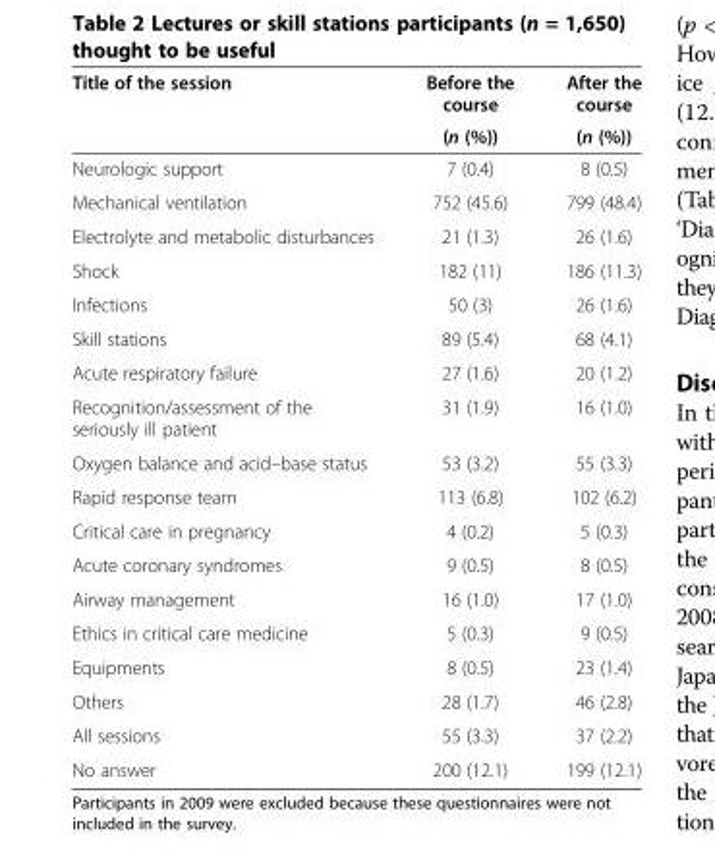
<table><thead><tr><td rowspan="2">Title of the session</td><td rowspan="2">Before the course (n (%))</td><td rowspan="2">After the course (n (%))</td></tr><tr></tr></thead><tbody><tr><td>Neurologic support</td><td>7 (0.4)</td><td>8 (0.5)</td></tr><tr><td>Mechanical ventilation</td><td>752 (45.6)</td><td>799 (48.4)</td></tr><tr><td>Electrolyte and metabolic disturbances</td><td>21 (1.3)</td><td>26 (1.6)</td></tr><tr><td>Shock</td><td>182 (11)</td><td>186 (11.3)</td></tr><tr><td>Infections</td><td>50 (3)</td><td>26 (1.6)</td></tr><tr><td>Skill stations</td><td>89 (5.4)</td><td>68 (4.1)</td></tr><tr><td>Acute respiratory failure</td><td>27 (1.6)</td><td>20 (1.2)</td></tr><tr><td>Recognition/assessment of the seriously ill patient</td><td>31 (1.9)</td><td>16 (1.0)</td></tr><tr><td>Oxygen balance and acid–base status</td><td>53 (3.2)</td><td>55 (3.3)</td></tr><tr><td>Rapid response team</td><td>113 (6.8)</td><td>102 (6.2)</td></tr><tr><td>Critical care in pregnancy</td><td>4 (0.2)</td><td>5 (0.3)</td></tr><tr><td>Acute coronary syndromes</td><td>9 (0.5)</td><td>8 (0.5)</td></tr><tr><td>Airway management</td><td>16 (1.0)</td><td>17 (1.0)</td></tr><tr><td>Ethics in critical care medicine</td><td>5 (0.3)</td><td>9 (0.5)</td></tr><tr><td>Equipments</td><td>8 (0.5)</td><td>23 (1.4)</td></tr><tr><td>Others</td><td>28 (1.7)</td><td>46 (2.8)</td></tr><tr><td>All sessions</td><td>55 (3.3)</td><td>37 (2.2)</td></tr><tr><td>No answer</td><td>200 (12.1)</td><td>199 (12.1)</td></tr></tbody></table>